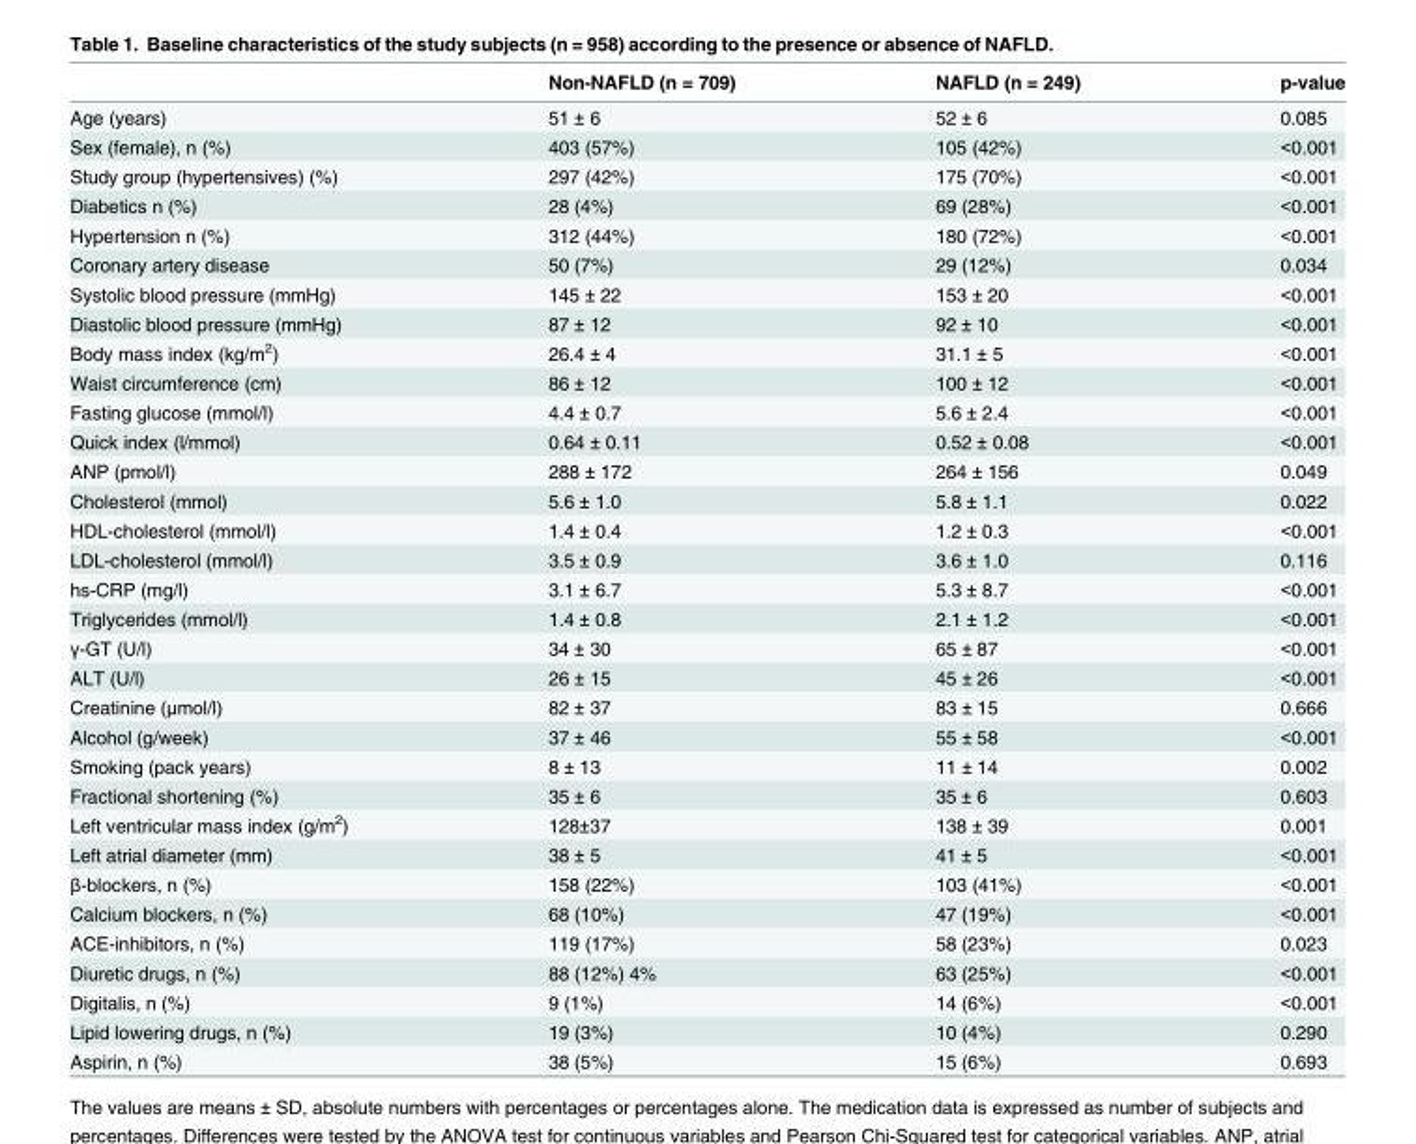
<table><thead><tr><td></td><td>Non-NAFLD (n = 709)</td><td>NAFLD (n = 249)</td><td>p-value</td></tr></thead><tbody><tr><td>Age (years)</td><td>51 ± 6</td><td>52 ± 6</td><td>0.085</td></tr><tr><td>Sex (female), n (%)</td><td>403 (57%)</td><td>105 (42%)</td><td>&lt;0.001</td></tr><tr><td>Study group (hypertensives) (%)</td><td>297 (42%)</td><td>175 (70%)</td><td>&lt;0.001</td></tr><tr><td>Diabetics n (%)</td><td>28 (4%)</td><td>69 (28%)</td><td>&lt;0.001</td></tr><tr><td>Hypertension n (%)</td><td>312 (44%)</td><td>180 (72%)</td><td>&lt;0.001</td></tr><tr><td>Coronary artery disease</td><td>50 (7%)</td><td>29 (12%)</td><td>0.034</td></tr><tr><td>Systolic blood pressure (mmHg)</td><td>145 ± 22</td><td>153 ± 20</td><td>&lt;0.001</td></tr><tr><td>Diastolic blood pressure (mmHg)</td><td>87 ± 12</td><td>92 ± 10</td><td>&lt;0.001</td></tr><tr><td>Body mass index (kg/m<sup>2</sup>)</td><td>26.4 ± 4</td><td>31.1 ± 5</td><td>&lt;0.001</td></tr><tr><td>Waist circumference (cm)</td><td>86 ± 12</td><td>100 ± 12</td><td>&lt;0.001</td></tr><tr><td>Fasting glucose (mmol/l)</td><td>4.4 ± 0.7</td><td>5.6 ± 2.4</td><td>&lt;0.001</td></tr><tr><td>Quick index (l/mmol)</td><td>0.64 ± 0.11</td><td>0.52 ± 0.08</td><td>&lt;0.001</td></tr><tr><td>ANP (pmol/l)</td><td>288 ± 172</td><td>264 ± 156</td><td>0.049</td></tr><tr><td>Cholesterol (mmol)</td><td>5.6 ± 1.0</td><td>5.8 ± 1.1</td><td>0.022</td></tr><tr><td>HDL-cholesterol (mmol/l)</td><td>1.4 ± 0.4</td><td>1.2 ± 0.3</td><td>&lt;0.001</td></tr><tr><td>LDL-cholesterol (mmol/l)</td><td>3.5 ± 0.9</td><td>3.6 ± 1.0</td><td>0.116</td></tr><tr><td>hs-CRP (mg/l)</td><td>3.1 ± 6.7</td><td>5.3 ± 8.7</td><td>&lt;0.001</td></tr><tr><td>Triglycerides (mmol/l)</td><td>1.4 ± 0.8</td><td>2.1 ± 1.2</td><td>&lt;0.001</td></tr><tr><td>γ-GT (U/l)</td><td>34 ± 30</td><td>65 ± 87</td><td>&lt;0.001</td></tr><tr><td>ALT (U/l)</td><td>26 ± 15</td><td>45 ± 26</td><td>&lt;0.001</td></tr><tr><td>Creatinine (μmol/l)</td><td>82 ± 37</td><td>83 ± 15</td><td>0.666</td></tr><tr><td>Alcohol (g/week)</td><td>37 ± 46</td><td>55 ± 58</td><td>&lt;0.001</td></tr><tr><td>Smoking (pack years)</td><td>8 ± 13</td><td>11 ± 14</td><td>0.002</td></tr><tr><td>Fractional shortening (%)</td><td>35 ± 6</td><td>35 ± 6</td><td>0.603</td></tr><tr><td>Left ventricular mass index (g/m<sup>2</sup>)</td><td>128±37</td><td>138 ± 39</td><td>0.001</td></tr><tr><td>Left atrial diameter (mm)</td><td>38 ± 5</td><td>41 ± 5</td><td>&lt;0.001</td></tr><tr><td>β-blockers, n (%)</td><td>158 (22%)</td><td>103 (41%)</td><td>&lt;0.001</td></tr><tr><td>Calcium blockers, n (%)</td><td>68 (10%)</td><td>47 (19%)</td><td>&lt;0.001</td></tr><tr><td>ACE-inhibitors, n (%)</td><td>119 (17%)</td><td>58 (23%)</td><td>0.023</td></tr><tr><td>Diuretic drugs, n (%)</td><td>88 (12%) 4%</td><td>63 (25%)</td><td>&lt;0.001</td></tr><tr><td>Digitalis, n (%)</td><td>9 (1%)</td><td>14 (6%)</td><td>&lt;0.001</td></tr><tr><td>Lipid lowering drugs, n (%)</td><td>19 (3%)</td><td>10 (4%)</td><td>0.290</td></tr><tr><td>Aspirin, n (%)</td><td>38 (5%)</td><td>15 (6%)</td><td>0.693</td></tr></tbody></table>